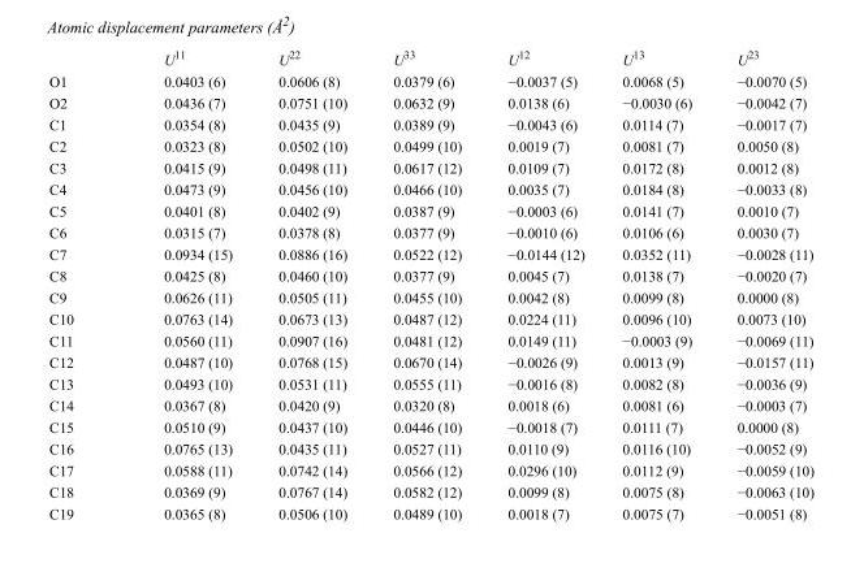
<table><thead><tr><td></td><td>U<sup>11</sup></td><td>U<sup>22</sup></td><td>U<sup>33</sup></td><td>U<sup>12</sup></td><td>U<sup>13</sup></td><td>U<sup>23</sup></td></tr></thead><tbody><tr><td>O1</td><td>0.0403 (6)</td><td>0.0606 (8)</td><td>0.0379 (6)</td><td>−0.0037 (5)</td><td>0.0068 (5)</td><td>−0.0070 (5)</td></tr><tr><td>O2</td><td>0.0436 (7)</td><td>0.0751 (10)</td><td>0.0632 (9)</td><td>0.0138 (6)</td><td>−0.0030 (6)</td><td>−0.0042 (7)</td></tr><tr><td>C1</td><td>0.0354 (8)</td><td>0.0435 (9)</td><td>0.0389 (9)</td><td>−0.0043 (6)</td><td>0.0114 (7)</td><td>−0.0017 (7)</td></tr><tr><td>C2</td><td>0.0323 (8)</td><td>0.0502 (10)</td><td>0.0499 (10)</td><td>0.0019 (7)</td><td>0.0081 (7)</td><td>0.0050 (8)</td></tr><tr><td>C3</td><td>0.0415 (9)</td><td>0.0498 (11)</td><td>0.0617 (12)</td><td>0.0109 (7)</td><td>0.0172 (8)</td><td>0.0012 (8)</td></tr><tr><td>C4</td><td>0.0473 (9)</td><td>0.0456 (10)</td><td>0.0466 (10)</td><td>0.0035 (7)</td><td>0.0184 (8)</td><td>−0.0033 (8)</td></tr><tr><td>C5</td><td>0.0401 (8)</td><td>0.0402 (9)</td><td>0.0387 (9)</td><td>−0.0003 (6)</td><td>0.0141 (7)</td><td>0.0010 (7)</td></tr><tr><td>C6</td><td>0.0315 (7)</td><td>0.0378 (8)</td><td>0.0377 (9)</td><td>−0.0010 (6)</td><td>0.0106 (6)</td><td>0.0030 (7)</td></tr><tr><td>C7</td><td>0.0934 (15)</td><td>0.0886 (16)</td><td>0.0522 (12)</td><td>−0.0144 (12)</td><td>0.0352 (11)</td><td>−0.0028 (11)</td></tr><tr><td>C8</td><td>0.0425 (8)</td><td>0.0460 (10)</td><td>0.0377 (9)</td><td>0.0045 (7)</td><td>0.0138 (7)</td><td>−0.0020 (7)</td></tr><tr><td>C9</td><td>0.0626 (11)</td><td>0.0505 (11)</td><td>0.0455 (10)</td><td>0.0042 (8)</td><td>0.0099 (8)</td><td>0.0000 (8)</td></tr><tr><td>C10</td><td>0.0763 (14)</td><td>0.0673 (13)</td><td>0.0487 (12)</td><td>0.0224 (11)</td><td>0.0096 (10)</td><td>0.0073 (10)</td></tr><tr><td>C11</td><td>0.0560 (11)</td><td>0.0907 (16)</td><td>0.0481 (12)</td><td>0.0149 (11)</td><td>−0.0003 (9)</td><td>−0.0069 (11)</td></tr><tr><td>C12</td><td>0.0487 (10)</td><td>0.0768 (15)</td><td>0.0670 (14)</td><td>−0.0026 (9)</td><td>0.0013 (9)</td><td>−0.0157 (11)</td></tr><tr><td>C13</td><td>0.0493 (10)</td><td>0.0531 (11)</td><td>0.0555 (11)</td><td>−0.0016 (8)</td><td>0.0082 (8)</td><td>−0.0036 (9)</td></tr><tr><td>C14</td><td>0.0367 (8)</td><td>0.0420 (9)</td><td>0.0320 (8)</td><td>0.0018 (6)</td><td>0.0081 (6)</td><td>−0.0003 (7)</td></tr><tr><td>C15</td><td>0.0510 (9)</td><td>0.0437 (10)</td><td>0.0446 (10)</td><td>−0.0018 (7)</td><td>0.0111 (7)</td><td>0.0000 (8)</td></tr><tr><td>C16</td><td>0.0765 (13)</td><td>0.0435 (11)</td><td>0.0527 (11)</td><td>0.0110 (9)</td><td>0.0116 (10)</td><td>−0.0052 (9)</td></tr><tr><td>C17</td><td>0.0588 (11)</td><td>0.0742 (14)</td><td>0.0566 (12)</td><td>0.0296 (10)</td><td>0.0112 (9)</td><td>−0.0059 (10)</td></tr><tr><td>C18</td><td>0.0369 (9)</td><td>0.0767 (14)</td><td>0.0582 (12)</td><td>0.0099 (8)</td><td>0.0075 (8)</td><td>−0.0063 (10)</td></tr><tr><td>C19</td><td>0.0365 (8)</td><td>0.0506 (10)</td><td>0.0489 (10)</td><td>0.0018 (7)</td><td>0.0075 (7)</td><td>−0.0051 (8)</td></tr></tbody></table>